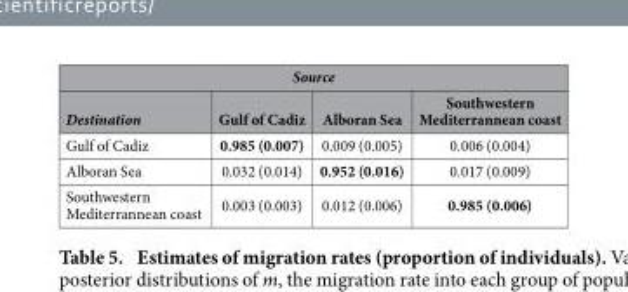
<table><thead><tr><td colspan="4">Source</td></tr><tr><td>Destination</td><td>Gulf of Cadiz</td><td>Alboran Sea</td><td>Southwestern Mediterrannean coast</td></tr></thead><tbody><tr><td>Gulf of Cadiz</td><td>0.985 (0.007)</td><td>0.009 (0.005)</td><td>0.006 (0.004)</td></tr><tr><td>Alboran Sea</td><td>0.032 (0.014)</td><td>0.952 (0.016)</td><td>0.017 (0.009)</td></tr><tr><td>Southwestern Mediterrannean coast</td><td>0.003 (0.003)</td><td>0.012 (0.006)</td><td>0.985 (0.006)</td></tr></tbody></table>